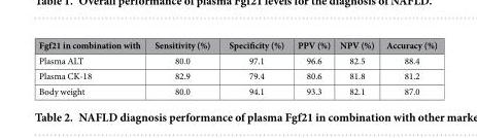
<table><thead><tr><td>Fgf21 in combination with</td><td>Sensitivity (%)</td><td>Specificity (%)</td><td>PPV (%)</td><td>NPV (%)</td><td>Accuracy (%)</td></tr></thead><tbody><tr><td>Plasma ALT</td><td>80.0</td><td>97.1</td><td>96.6</td><td>82.5</td><td>88.4</td></tr><tr><td>Plasma CK-18</td><td>82.9</td><td>79.4</td><td>80.6</td><td>81.8</td><td>81.2</td></tr><tr><td>Body weight</td><td>80.0</td><td>94.1</td><td>93.3</td><td>82.1</td><td>87.0</td></tr></tbody></table>